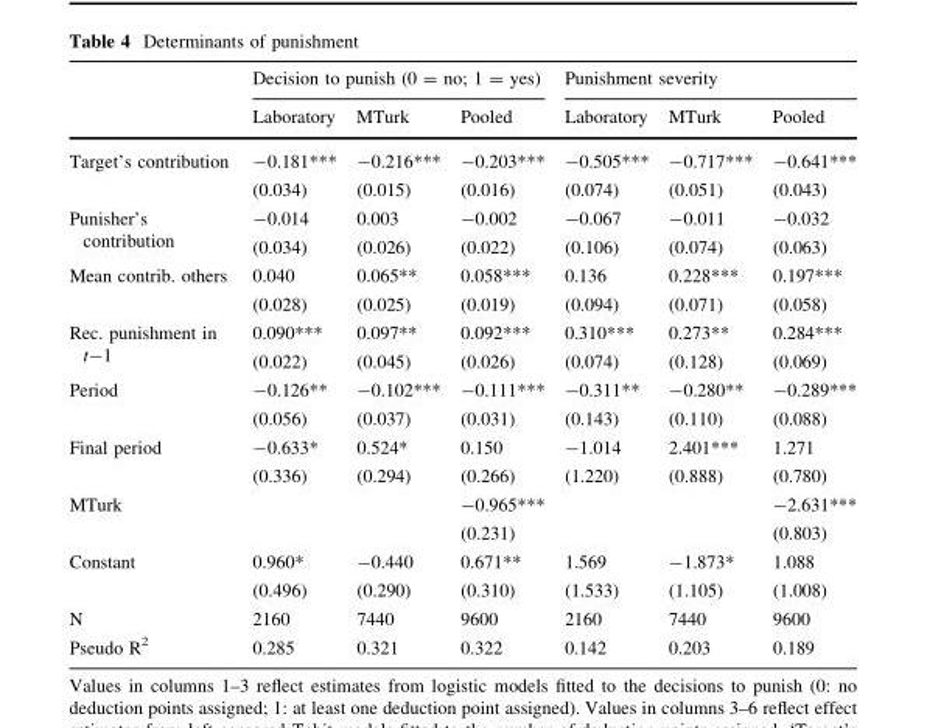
<table><thead><tr><td rowspan="2"></td><td colspan="3">Decision to punish (0 = no; 1 = yes)</td><td colspan="3">Punishment severity</td></tr><tr><td>Laboratory</td><td>MTurk</td><td>Pooled</td><td>Laboratory</td><td>MTurk</td><td>Pooled</td></tr></thead><tbody><tr><td rowspan="2">Target’s contribution</td><td>-0.181***</td><td>-0.216***</td><td>-0.203***</td><td>-0.505***</td><td>-0.717***</td><td>-0.641***</td></tr><tr><td>(0.034)</td><td>(0.015)</td><td>(0.016)</td><td>(0.074)</td><td>(0.051)</td><td>(0.043)</td></tr><tr><td rowspan="2">Punisher’s contribution</td><td>-0.014</td><td>0.003</td><td>-0.002</td><td>-0.067</td><td>-0.011</td><td>-0.032</td></tr><tr><td>(0.034)</td><td>(0.026)</td><td>(0.022)</td><td>(0.106)</td><td>(0.074)</td><td>(0.063)</td></tr><tr><td rowspan="2">Mean contrib. others</td><td>0.040</td><td>0.065**</td><td>0.058***</td><td>0.136</td><td>0.228***</td><td>0.197***</td></tr><tr><td>(0.028)</td><td>(0.025)</td><td>(0.019)</td><td>(0.094)</td><td>(0.071)</td><td>(0.058)</td></tr><tr><td rowspan="2">Rec. punishment in t-1</td><td>0.090***</td><td>0.097**</td><td>0.092***</td><td>0.310***</td><td>0.273**</td><td>0.284***</td></tr><tr><td>(0.022)</td><td>(0.045)</td><td>(0.026)</td><td>(0.074)</td><td>(0.128)</td><td>(0.069)</td></tr><tr><td rowspan="2">Period</td><td>-0.126**</td><td>-0.102***</td><td>-0.111***</td><td>-0.311**</td><td>-0.280**</td><td>-0.289***</td></tr><tr><td>(0.056)</td><td>(0.037)</td><td>(0.031)</td><td>(0.143)</td><td>(0.110)</td><td>(0.088)</td></tr><tr><td rowspan="2">Final period</td><td>-0.633*</td><td>0.524*</td><td>0.150</td><td>-1.014</td><td>2.401***</td><td>1.271</td></tr><tr><td>(0.336)</td><td>(0.294)</td><td>(0.266)</td><td>(1.220)</td><td>(0.888)</td><td>(0.780)</td></tr><tr><td rowspan="2">MTurk</td><td></td><td></td><td>-0.965***</td><td></td><td></td><td>-2.631***</td></tr><tr><td></td><td></td><td>(0.231)</td><td></td><td></td><td>(0.803)</td></tr><tr><td rowspan="2">Constant</td><td>0.960*</td><td>-0.440</td><td>0.671**</td><td>1.569</td><td>-1.873*</td><td>1.088</td></tr><tr><td>(0.496)</td><td>(0.290)</td><td>(0.310)</td><td>(1.533)</td><td>(1.105)</td><td>(1.008)</td></tr><tr><td>N</td><td>2160</td><td>7440</td><td>9600</td><td>2160</td><td>7440</td><td>9600</td></tr><tr><td>Pseudo R<sup>2</sup></td><td>0.285</td><td>0.321</td><td>0.322</td><td>0.142</td><td>0.203</td><td>0.189</td></tr></tbody></table>